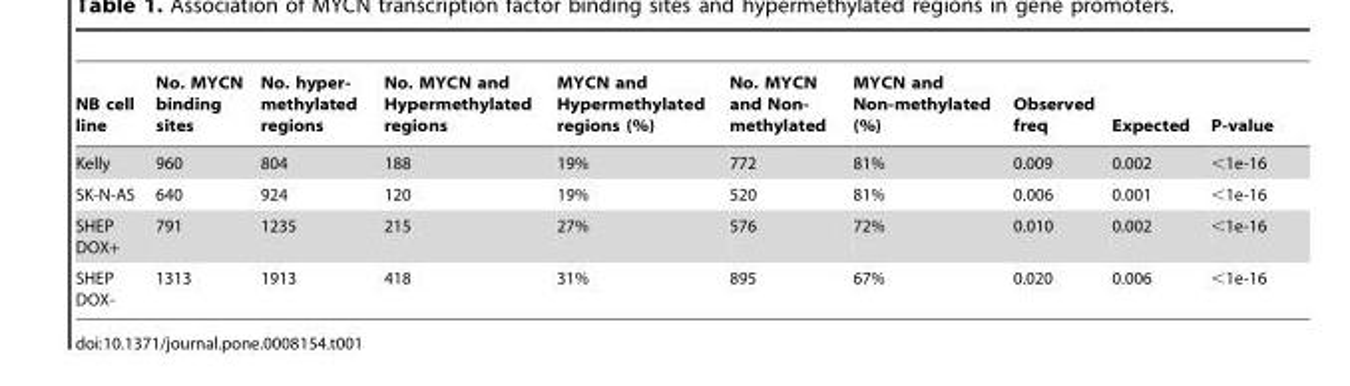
<table><thead><tr><td>NB cell line</td><td>No. MYCN binding sites</td><td>No. hyper- methylated regions</td><td>No. MYCN and Hypermethylated regions</td><td>MYCN and Hypermethylated regions (%)</td><td>No. MYCN and Non- methylated</td><td>MYCN and Non-methylated (%)</td><td>Observed freq</td><td>Expected</td><td>P-value</td></tr></thead><tbody><tr><td>Kelly</td><td>960</td><td>804</td><td>188</td><td>19%</td><td>772</td><td>81%</td><td>0.009</td><td>0.002</td><td>&lt;1e-16</td></tr><tr><td>SK-N-AS</td><td>640</td><td>924</td><td>120</td><td>19%</td><td>520</td><td>81%</td><td>0.006</td><td>0.001</td><td>&lt;1e-16</td></tr><tr><td>SHEP DOX+</td><td>791</td><td>1235</td><td>215</td><td>27%</td><td>576</td><td>72%</td><td>0.010</td><td>0.002</td><td>&lt;1e-16</td></tr><tr><td>SHEP DOX-</td><td>1313</td><td>1913</td><td>418</td><td>31%</td><td>895</td><td>67%</td><td>0.020</td><td>0.006</td><td>&lt;1e-16</td></tr></tbody></table>